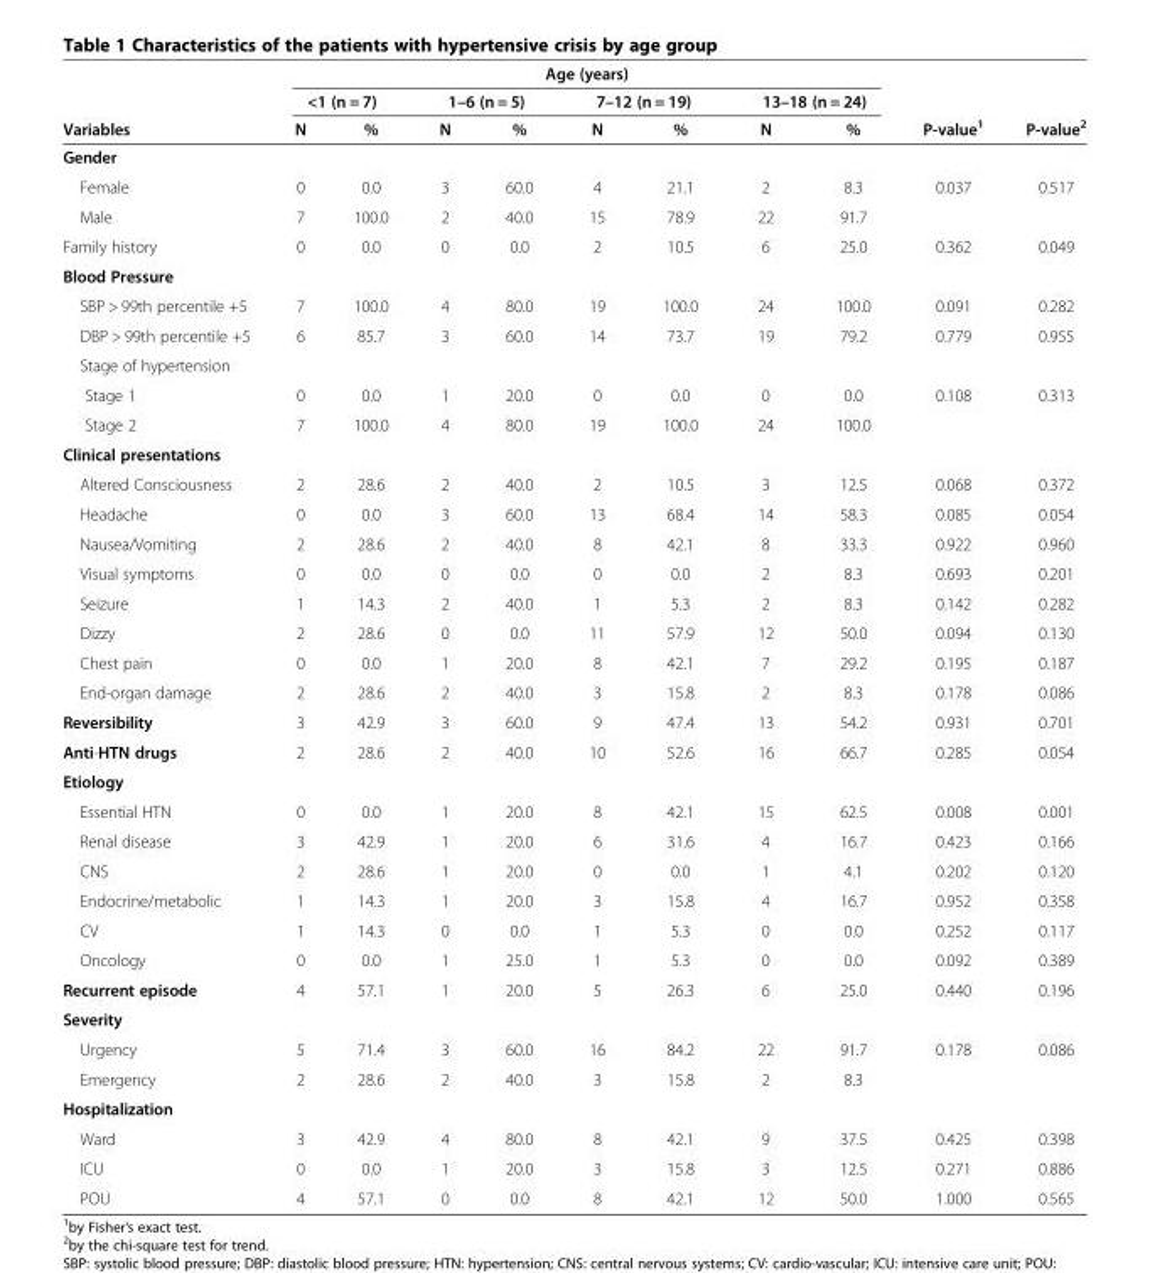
<table><thead><tr><td rowspan="3">Variables</td><td colspan="8">Age (years)</td><td rowspan="3">P-value<sup>1</sup></td><td rowspan="3">P-value<sup>2</sup></td></tr><tr><td colspan="2">&lt;1 (n = 7)</td><td colspan="2">1–6 (n = 5)</td><td colspan="2">7–12 (n = 19)</td><td colspan="2">13–18 (n = 24)</td></tr><tr><td>N</td><td>%</td><td>N</td><td>%</td><td>N</td><td>%</td><td>N</td><td>%</td></tr></thead><tbody><tr><td colspan="11">Gender</td></tr><tr><td>Female</td><td>0</td><td>0.0</td><td>3</td><td>60.0</td><td>4</td><td>21.1</td><td>2</td><td>8.3</td><td>0.037</td><td>0.517</td></tr><tr><td>Male</td><td>7</td><td>100.0</td><td>2</td><td>40.0</td><td>15</td><td>78.9</td><td>22</td><td>91.7</td><td></td><td></td></tr><tr><td>Family history</td><td>0</td><td>0.0</td><td>0</td><td>0.0</td><td>2</td><td>10.5</td><td>6</td><td>25.0</td><td>0.362</td><td>0.049</td></tr><tr><td colspan="11">Blood Pressure</td></tr><tr><td>SBP &gt; 99th percentile +5</td><td>7</td><td>100.0</td><td>4</td><td>80.0</td><td>19</td><td>100.0</td><td>24</td><td>100.0</td><td>0.091</td><td>0.282</td></tr><tr><td>DBP &gt; 99th percentile +5</td><td>6</td><td>85.7</td><td>3</td><td>60.0</td><td>14</td><td>73.7</td><td>19</td><td>79.2</td><td>0.779</td><td>0.955</td></tr><tr><td colspan="11">Stage of hypertension</td></tr><tr><td>Stage 1</td><td>0</td><td>0.0</td><td>1</td><td>20.0</td><td>0</td><td>0.0</td><td>0</td><td>0.0</td><td>0.108</td><td>0.313</td></tr><tr><td>Stage 2</td><td>7</td><td>100.0</td><td>4</td><td>80.0</td><td>19</td><td>100.0</td><td>24</td><td>100.0</td><td></td><td></td></tr><tr><td colspan="11">Clinical presentations</td></tr><tr><td>Altered Consciousness</td><td>2</td><td>28.6</td><td>2</td><td>40.0</td><td>2</td><td>10.5</td><td>3</td><td>12.5</td><td>0.068</td><td>0.372</td></tr><tr><td>Headache</td><td>0</td><td>0.0</td><td>3</td><td>60.0</td><td>13</td><td>68.4</td><td>14</td><td>58.3</td><td>0.085</td><td>0.054</td></tr><tr><td>Nausea/Vomiting</td><td>2</td><td>28.6</td><td>2</td><td>40.0</td><td>8</td><td>42.1</td><td>8</td><td>33.3</td><td>0.922</td><td>0.960</td></tr><tr><td>Visual symptoms</td><td>0</td><td>0.0</td><td>0</td><td>0.0</td><td>0</td><td>0.0</td><td>2</td><td>8.3</td><td>0.693</td><td>0.201</td></tr><tr><td>Seizure</td><td>1</td><td>14.3</td><td>2</td><td>40.0</td><td>1</td><td>5.3</td><td>2</td><td>8.3</td><td>0.142</td><td>0.282</td></tr><tr><td>Dizzy</td><td>2</td><td>28.6</td><td>0</td><td>0.0</td><td>11</td><td>57.9</td><td>12</td><td>50.0</td><td>0.094</td><td>0.130</td></tr><tr><td>Chest pain</td><td>0</td><td>0.0</td><td>1</td><td>20.0</td><td>8</td><td>42.1</td><td>7</td><td>29.2</td><td>0.195</td><td>0.187</td></tr><tr><td>End-organ damage</td><td>2</td><td>28.6</td><td>2</td><td>40.0</td><td>3</td><td>15.8</td><td>2</td><td>8.3</td><td>0.178</td><td>0.086</td></tr><tr><td>Reversibility</td><td>3</td><td>42.9</td><td>3</td><td>60.0</td><td>9</td><td>47.4</td><td>13</td><td>54.2</td><td>0.931</td><td>0.701</td></tr><tr><td>Anti-HTN drugs</td><td>2</td><td>28.6</td><td>2</td><td>40.0</td><td>10</td><td>52.6</td><td>16</td><td>66.7</td><td>0.285</td><td>0.054</td></tr><tr><td colspan="11">Etiology</td></tr><tr><td>Essential HTN</td><td>0</td><td>0.0</td><td>1</td><td>20.0</td><td>8</td><td>42.1</td><td>15</td><td>62.5</td><td>0.008</td><td>0.001</td></tr><tr><td>Renal disease</td><td>3</td><td>42.9</td><td>1</td><td>20.0</td><td>6</td><td>31.6</td><td>4</td><td>16.7</td><td>0.423</td><td>0.166</td></tr><tr><td>CNS</td><td>2</td><td>28.6</td><td>1</td><td>20.0</td><td>0</td><td>0.0</td><td>1</td><td>4.1</td><td>0.202</td><td>0.120</td></tr><tr><td>Endocrine/metabolic</td><td>1</td><td>14.3</td><td>1</td><td>20.0</td><td>3</td><td>15.8</td><td>4</td><td>16.7</td><td>0.952</td><td>0.358</td></tr><tr><td>CV</td><td>1</td><td>14.3</td><td>0</td><td>0.0</td><td>1</td><td>5.3</td><td>0</td><td>0.0</td><td>0.252</td><td>0.117</td></tr><tr><td>Oncology</td><td>0</td><td>0.0</td><td>1</td><td>25.0</td><td>1</td><td>5.3</td><td>0</td><td>0.0</td><td>0.092</td><td>0.389</td></tr><tr><td>Recurrent episode</td><td>4</td><td>57.1</td><td>1</td><td>20.0</td><td>5</td><td>26.3</td><td>6</td><td>25.0</td><td>0.440</td><td>0.196</td></tr><tr><td colspan="11">Severity</td></tr><tr><td>Urgency</td><td>5</td><td>71.4</td><td>3</td><td>60.0</td><td>16</td><td>84.2</td><td>22</td><td>91.7</td><td>0.178</td><td>0.086</td></tr><tr><td>Emergency</td><td>2</td><td>28.6</td><td>2</td><td>40.0</td><td>3</td><td>15.8</td><td>2</td><td>8.3</td><td></td><td></td></tr><tr><td colspan="11">Hospitalization</td></tr><tr><td>Ward</td><td>3</td><td>42.9</td><td>4</td><td>80.0</td><td>8</td><td>42.1</td><td>9</td><td>37.5</td><td>0.425</td><td>0.398</td></tr><tr><td>ICU</td><td>0</td><td>0.0</td><td>1</td><td>20.0</td><td>3</td><td>15.8</td><td>3</td><td>12.5</td><td>0.271</td><td>0.886</td></tr><tr><td>POU</td><td>4</td><td>57.1</td><td>0</td><td>0.0</td><td>8</td><td>42.1</td><td>12</td><td>50.0</td><td>1.000</td><td>0.565</td></tr></tbody></table>